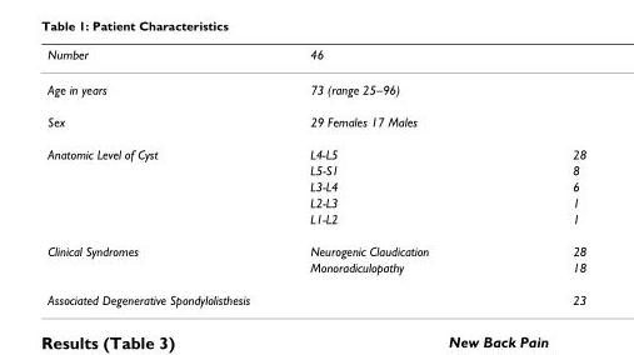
<table><thead><tr><td>Number</td><td>46</td><td></td></tr></thead><tbody><tr><td>Age in years</td><td>73 (range 25–96)</td><td></td></tr><tr><td>Sex</td><td>29 Females 17 Males</td><td></td></tr><tr><td rowspan="5">Anatomic Level of Cyst</td><td>L4-L5</td><td>28</td></tr><tr><td>L5-S1</td><td>8</td></tr><tr><td>L3-L4</td><td>6</td></tr><tr><td>L2-L3</td><td>1</td></tr><tr><td>L1-L2</td><td>1</td></tr><tr><td rowspan="2">Clinical Syndromes</td><td>Neurogenic Claudication</td><td>28</td></tr><tr><td>Monoradiculopathy</td><td>18</td></tr><tr><td colspan="2">Associated Degenerative Spondylolisthesis</td><td>23</td></tr></tbody></table>